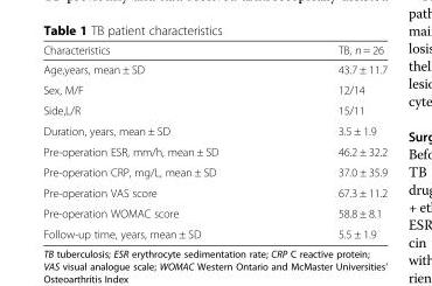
<table><thead><tr><td>Characteristics</td><td>TB, n = 26</td></tr></thead><tbody><tr><td>Age,years, mean ± SD</td><td>43.7 ± 11.7</td></tr><tr><td>Sex, M/F</td><td>12/14</td></tr><tr><td>Side,L/R</td><td>15/11</td></tr><tr><td>Duration, years, mean ± SD</td><td>3.5 ± 1.9</td></tr><tr><td>Pre-operation ESR, mm/h, mean ± SD</td><td>46.2 ± 32.2</td></tr><tr><td>Pre-operation CRP, mg/L, mean ± SD</td><td>37.0 ± 35.9</td></tr><tr><td>Pre-operation VAS score</td><td>67.3 ± 11.2</td></tr><tr><td>Pre-operation WOMAC score</td><td>58.8 ± 8.1</td></tr><tr><td>Follow-up time, years, mean ± SD</td><td>5.5 ± 1.9</td></tr></tbody></table>